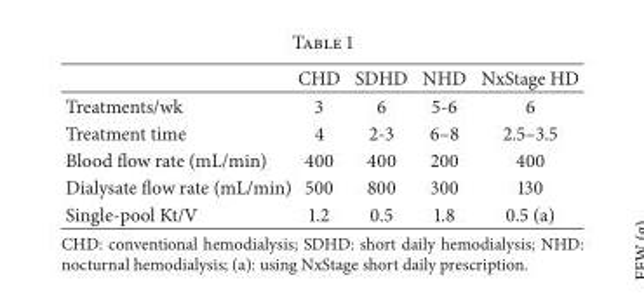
<table><thead><tr><td></td><td>CHD</td><td>SDHD</td><td>NHD</td><td>NxStage HD</td></tr></thead><tbody><tr><td>Treatments/wk</td><td>3</td><td>6</td><td>5-6</td><td>6</td></tr><tr><td>Treatment time</td><td>4</td><td>2-3</td><td>6–8</td><td>2.5–3.5</td></tr><tr><td>Blood flow rate (mL/min)</td><td>400</td><td>400</td><td>200</td><td>400</td></tr><tr><td>Dialysate flow rate (mL/min)</td><td>500</td><td>800</td><td>300</td><td>130</td></tr><tr><td>Single-pool Kt/V</td><td>1.2</td><td>0.5</td><td>1.8</td><td>0.5 (a)</td></tr></tbody></table>